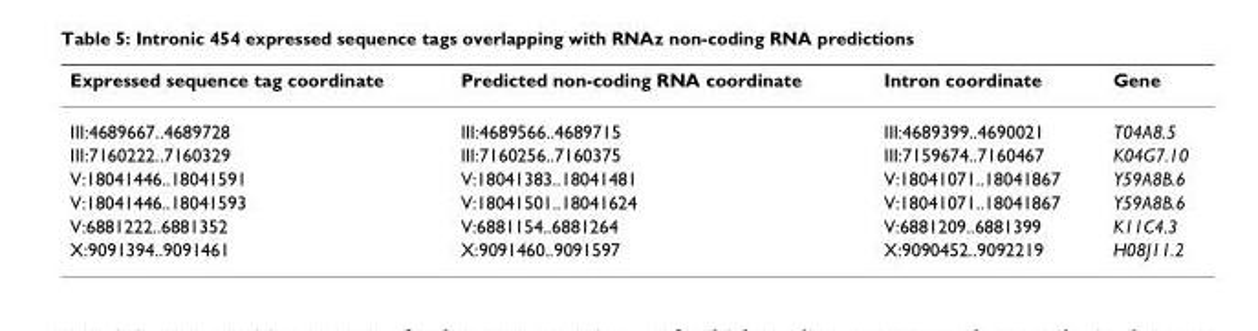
<table><thead><tr><td>Expressed sequence tag coordinate</td><td>Predicted non-coding RNA coordinate</td><td>Intron coordinate</td><td>Gene</td></tr></thead><tbody><tr><td>III:4689667..4689728</td><td>III:4689566..4689715</td><td>III:4689399..4690021</td><td>T04A8.5</td></tr><tr><td>III:7160222..7160329</td><td>III:7160256..7160375</td><td>III:7159674..7160467</td><td>K04G7.10</td></tr><tr><td>V:18041446..18041591</td><td>V:18041383..18041481</td><td>V:18041071..18041867</td><td>Y59A8B.6</td></tr><tr><td>V:18041446..18041593</td><td>V:18041501..18041624</td><td>V:18041071..18041867</td><td>Y59A8B.6</td></tr><tr><td>V:6881222..6881352</td><td>V:6881154..6881264</td><td>V:6881209..6881399</td><td>K11C4.3</td></tr><tr><td>X:9091394..9091461</td><td>X:9091460..9091597</td><td>X:9090452..9092219</td><td>H08J11.2</td></tr></tbody></table>